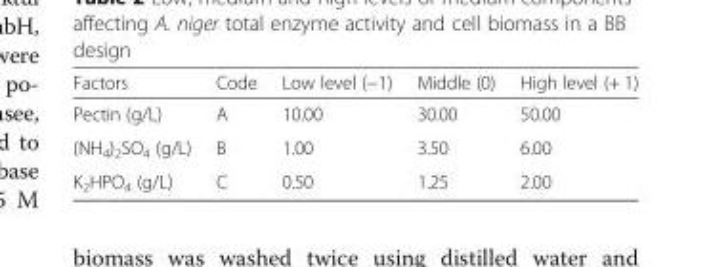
<table><thead><tr><td>Factors</td><td>Code</td><td>Low level (−1)</td><td>Middle (0)</td><td>High level (+ 1)</td></tr></thead><tbody><tr><td>Pectin (g/L)</td><td>A</td><td>10.00</td><td>30.00</td><td>50.00</td></tr><tr><td>(NH<sub>4</sub>)<sub>2</sub>SO<sub>4</sub> (g/L)</td><td>B</td><td>1.00</td><td>3.50</td><td>6.00</td></tr><tr><td>K<sub>2</sub>HPO<sub>4</sub> (g/L)</td><td>C</td><td>0.50</td><td>1.25</td><td>2.00</td></tr></tbody></table>